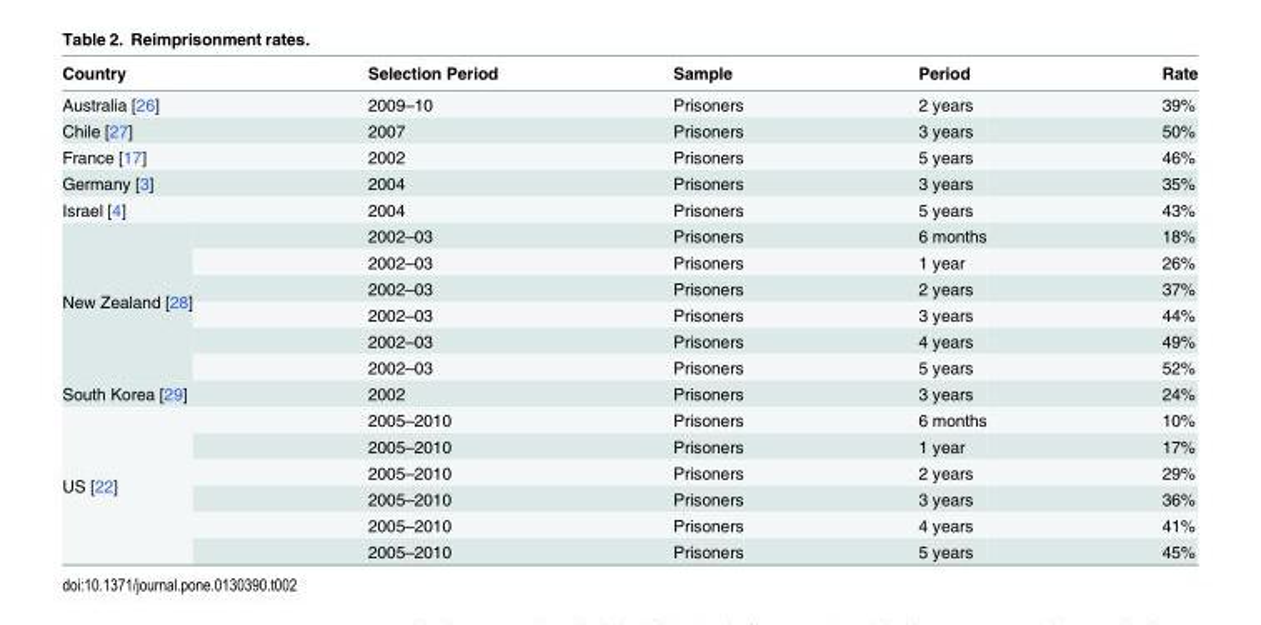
<table><thead><tr><td>Country</td><td>Selection Period</td><td>Sample</td><td>Period</td><td>Rate</td></tr></thead><tbody><tr><td>Australia [26]</td><td>2009–10</td><td>Prisoners</td><td>2 years</td><td>39%</td></tr><tr><td>Chile [27]</td><td>2007</td><td>Prisoners</td><td>3 years</td><td>50%</td></tr><tr><td>France [17]</td><td>2002</td><td>Prisoners</td><td>5 years</td><td>46%</td></tr><tr><td>Germany [3]</td><td>2004</td><td>Prisoners</td><td>3 years</td><td>35%</td></tr><tr><td>Israel [4]</td><td>2004</td><td>Prisoners</td><td>5 years</td><td>43%</td></tr><tr><td rowspan="6">New Zealand [28]</td><td>2002–03</td><td>Prisoners</td><td>6 months</td><td>18%</td></tr><tr><td>2002–03</td><td>Prisoners</td><td>1 year</td><td>26%</td></tr><tr><td>2002–03</td><td>Prisoners</td><td>2 years</td><td>37%</td></tr><tr><td>2002–03</td><td>Prisoners</td><td>3 years</td><td>44%</td></tr><tr><td>2002–03</td><td>Prisoners</td><td>4 years</td><td>49%</td></tr><tr><td>2002–03</td><td>Prisoners</td><td>5 years</td><td>52%</td></tr><tr><td>South Korea [29]</td><td>2002</td><td>Prisoners</td><td>3 years</td><td>24%</td></tr><tr><td rowspan="6">US [22]</td><td>2005–2010</td><td>Prisoners</td><td>6 months</td><td>10%</td></tr><tr><td>2005–2010</td><td>Prisoners</td><td>1 year</td><td>17%</td></tr><tr><td>2005–2010</td><td>Prisoners</td><td>2 years</td><td>29%</td></tr><tr><td>2005–2010</td><td>Prisoners</td><td>3 years</td><td>36%</td></tr><tr><td>2005–2010</td><td>Prisoners</td><td>4 years</td><td>41%</td></tr><tr><td>2005–2010</td><td>Prisoners</td><td>5 years</td><td>45%</td></tr></tbody></table>